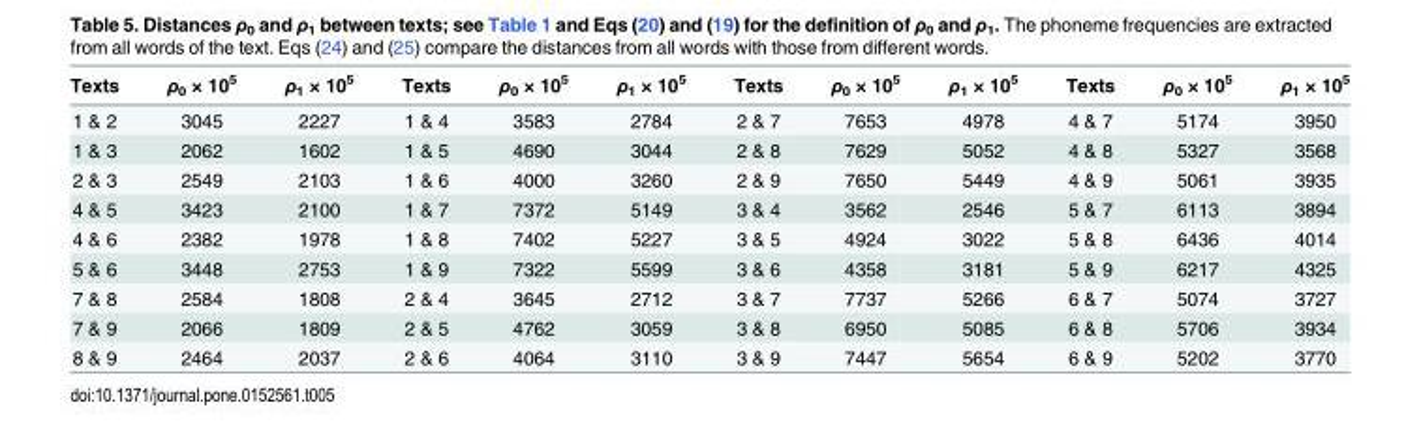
<table><thead><tr><td>Texts</td><td>ρ<sub>0</sub> × 10<sup>5</sup></td><td>ρ<sub>1</sub> × 10<sup>5</sup></td><td>Texts</td><td>ρ<sub>0</sub> × 10<sup>5</sup></td><td>ρ<sub>1</sub> × 10<sup>5</sup></td><td>Texts</td><td>ρ<sub>0</sub> × 10<sup>5</sup></td><td>ρ<sub>1</sub> × 10<sup>5</sup></td><td>Texts</td><td>ρ<sub>0</sub> × 10<sup>5</sup></td><td>ρ<sub>1</sub> × 10<sup>5</sup></td></tr></thead><tbody><tr><td>1 &amp; 2</td><td>3045</td><td>2227</td><td>1 &amp; 4</td><td>3583</td><td>2784</td><td>2 &amp; 7</td><td>7653</td><td>4978</td><td>4 &amp; 7</td><td>5174</td><td>3950</td></tr><tr><td>1 &amp; 3</td><td>2062</td><td>1602</td><td>1 &amp; 5</td><td>4690</td><td>3044</td><td>2 &amp; 8</td><td>7629</td><td>5052</td><td>4 &amp; 8</td><td>5327</td><td>3568</td></tr><tr><td>2 &amp; 3</td><td>2549</td><td>2103</td><td>1 &amp; 6</td><td>4000</td><td>3260</td><td>2 &amp; 9</td><td>7650</td><td>5449</td><td>4 &amp; 9</td><td>5061</td><td>3935</td></tr><tr><td>4 &amp; 5</td><td>3423</td><td>2100</td><td>1 &amp; 7</td><td>7372</td><td>5149</td><td>3 &amp; 4</td><td>3562</td><td>2546</td><td>5 &amp; 7</td><td>6113</td><td>3894</td></tr><tr><td>4 &amp; 6</td><td>2382</td><td>1978</td><td>1 &amp; 8</td><td>7402</td><td>5227</td><td>3 &amp; 5</td><td>4924</td><td>3022</td><td>5 &amp; 8</td><td>6436</td><td>4014</td></tr><tr><td>5 &amp; 6</td><td>3448</td><td>2753</td><td>1 &amp; 9</td><td>7322</td><td>5599</td><td>3 &amp; 6</td><td>4358</td><td>3181</td><td>5 &amp; 9</td><td>6217</td><td>4325</td></tr><tr><td>7 &amp; 8</td><td>2584</td><td>1808</td><td>2 &amp; 4</td><td>3645</td><td>2712</td><td>3 &amp; 7</td><td>7737</td><td>5266</td><td>6 &amp; 7</td><td>5074</td><td>3727</td></tr><tr><td>7 &amp; 9</td><td>2066</td><td>1809</td><td>2 &amp; 5</td><td>4762</td><td>3059</td><td>3 &amp; 8</td><td>6950</td><td>5085</td><td>6 &amp; 8</td><td>5706</td><td>3934</td></tr><tr><td>8 &amp; 9</td><td>2464</td><td>2037</td><td>2 &amp; 6</td><td>4064</td><td>3110</td><td>3 &amp; 9</td><td>7447</td><td>5654</td><td>6 &amp; 9</td><td>5202</td><td>3770</td></tr></tbody></table>